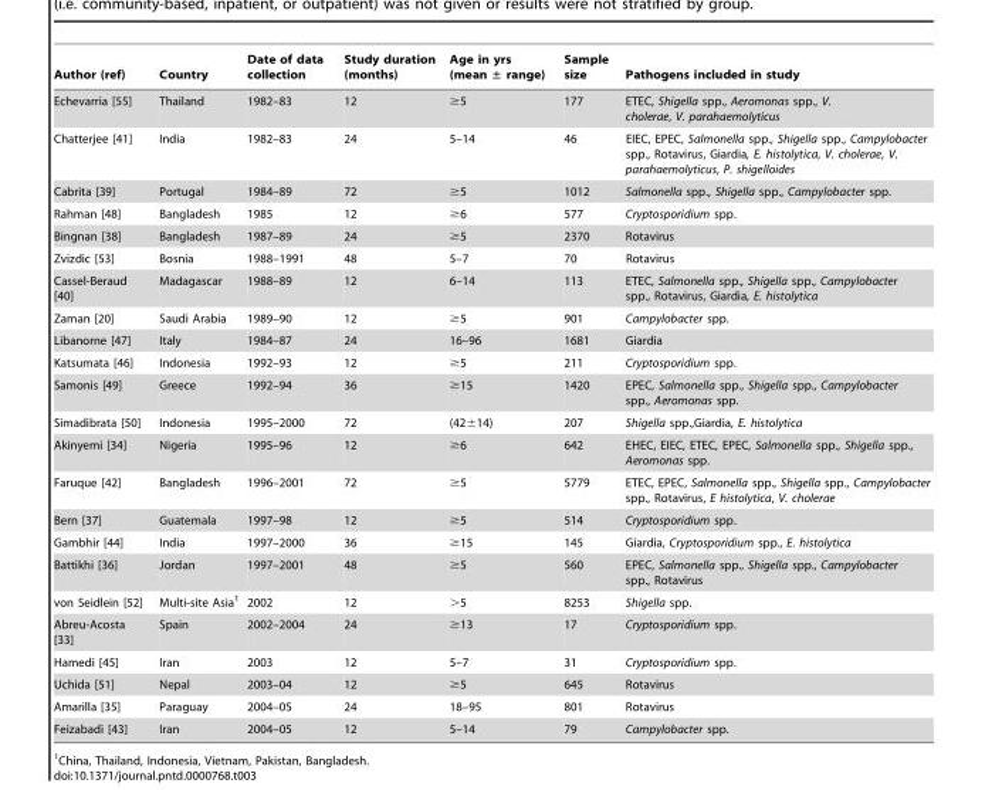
<table><thead><tr><td>Author (ref)</td><td>Country</td><td>Date of data collection</td><td>Study duration (months)</td><td>Age in yrs (mean ± range)</td><td>Sample size</td><td>Pathogens included in study</td></tr></thead><tbody><tr><td>Echevarria [55]</td><td>Thailand</td><td>1982–83</td><td>12</td><td>≥5</td><td>177</td><td>ETEC, Shigella spp., Aeromonas spp., V. cholerae, V. parahaemolyticus</td></tr><tr><td>Chatterjee [41]</td><td>India</td><td>1982–83</td><td>24</td><td>5–14</td><td>46</td><td>EIEC, EPEC, Salmonella spp., Shigella spp., Campylobacter spp., Rotavirus, Giardia, E. histolytica, V. cholerae, V. parahaemolyticus, P. shigelloides</td></tr><tr><td>Cabrita [39]</td><td>Portugal</td><td>1984–89</td><td>72</td><td>≥5</td><td>1012</td><td>Salmonella spp., Shigella spp., Campylobacter spp.</td></tr><tr><td>Rahman [48]</td><td>Bangladesh</td><td>1985</td><td>12</td><td>≥6</td><td>577</td><td>Cryptosporidium spp.</td></tr><tr><td>Bingnan [38]</td><td>Bangladesh</td><td>1987–89</td><td>24</td><td>≥5</td><td>2370</td><td>Rotavirus</td></tr><tr><td>Zvizdic [53]</td><td>Bosnia</td><td>1988–1991</td><td>48</td><td>5–7</td><td>70</td><td>Rotavirus</td></tr><tr><td>Cassel-Beraud [40]</td><td>Madagascar</td><td>1988–89</td><td>12</td><td>6–14</td><td>113</td><td>ETEC, Salmonella spp., Shigella spp., Campylobacter spp., Rotavirus, Giardia, E. histolytica</td></tr><tr><td>Zaman [20]</td><td>Saudi Arabia</td><td>1989–90</td><td>12</td><td>≥5</td><td>901</td><td>Campylobacter spp.</td></tr><tr><td>Libanorne [47]</td><td>Italy</td><td>1984–87</td><td>24</td><td>16–96</td><td>1681</td><td>Giardia</td></tr><tr><td>Katsumata [46]</td><td>Indonesia</td><td>1992–93</td><td>12</td><td>≥5</td><td>211</td><td>Cryptosporidium spp.</td></tr><tr><td>Samonis [49]</td><td>Greece</td><td>1992–94</td><td>36</td><td>≥15</td><td>1420</td><td>EPEC, Salmonella spp., Shigella spp., Campylobacter spp., Aeromonas spp.</td></tr><tr><td>Simadibrata [50]</td><td>Indonesia</td><td>1995–2000</td><td>72</td><td>(42±14)</td><td>207</td><td>Shigella spp.,Giardia, E. histolytica</td></tr><tr><td>Akinyemi [34]</td><td>Nigeria</td><td>1995–96</td><td>12</td><td>≥6</td><td>642</td><td>EHEC, EIEC, ETEC, EPEC, Salmonella spp., Shigella spp., Aeromonas spp.</td></tr><tr><td>Faruque [42]</td><td>Bangladesh</td><td>1996–2001</td><td>72</td><td>≥5</td><td>5779</td><td>ETEC, EPEC, Salmonella spp., Shigella spp., Campylobacter spp., Rotavirus, E histolytica, V. cholerae</td></tr><tr><td>Bern [37]</td><td>Guatemala</td><td>1997–98</td><td>12</td><td>≥5</td><td>514</td><td>Cryptosporidium spp.</td></tr><tr><td>Gambhir [44]</td><td>India</td><td>1997–2000</td><td>36</td><td>≥15</td><td>145</td><td>Giardia, Cryptosporidium spp., E. histolytica</td></tr><tr><td>Battikhi [36]</td><td>Jordan</td><td>1997–2001</td><td>48</td><td>≥5</td><td>560</td><td>EPEC, Salmonella spp., Shigella spp., Campylobacter spp., Rotavirus</td></tr><tr><td>von Seidlein [52]</td><td>Multi-site Asia<sup>1</sup></td><td>2002</td><td>12</td><td>&gt;5</td><td>8253</td><td>Shigella spp.</td></tr><tr><td>Abreu-Acosta [33]</td><td>Spain</td><td>2002–2004</td><td>24</td><td>≥13</td><td>17</td><td>Cryptosporidium spp.</td></tr><tr><td>Hamedi [45]</td><td>Iran</td><td>2003</td><td>12</td><td>5–7</td><td>31</td><td>Cryptosporidium spp.</td></tr><tr><td>Uchida [51]</td><td>Nepal</td><td>2003–04</td><td>12</td><td>≥5</td><td>645</td><td>Rotavirus</td></tr><tr><td>Amarilla [35]</td><td>Paraguay</td><td>2004–05</td><td>24</td><td>18–95</td><td>801</td><td>Rotavirus</td></tr><tr><td>Feizabadi [43]</td><td>Iran</td><td>2004–05</td><td>12</td><td>5–14</td><td>79</td><td>Campylobacter spp.</td></tr></tbody></table>